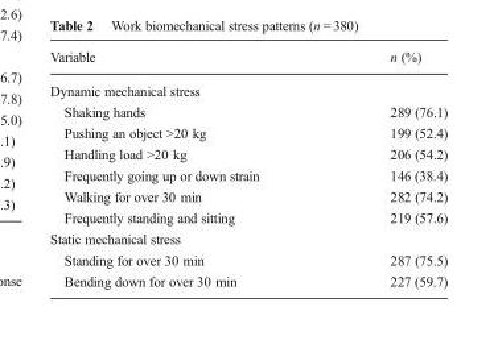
<table><thead><tr><td>Variable</td><td>n (%)</td></tr></thead><tbody><tr><td colspan="2">Dynamic mechanical stress</td></tr><tr><td>Shaking hands</td><td>289 (76.1)</td></tr><tr><td>Pushing an object &gt;20 kg</td><td>199 (52.4)</td></tr><tr><td>Handling load &gt;20 kg</td><td>206 (54.2)</td></tr><tr><td>Frequently going up or down strain</td><td>146 (38.4)</td></tr><tr><td>Walking for over 30 min</td><td>282 (74.2)</td></tr><tr><td>Frequently standing and sitting</td><td>219 (57.6)</td></tr><tr><td colspan="2">Static mechanical stress</td></tr><tr><td>Standing for over 30 min</td><td>287 (75.5)</td></tr><tr><td>Bending down for over 30 min</td><td>227 (59.7)</td></tr></tbody></table>